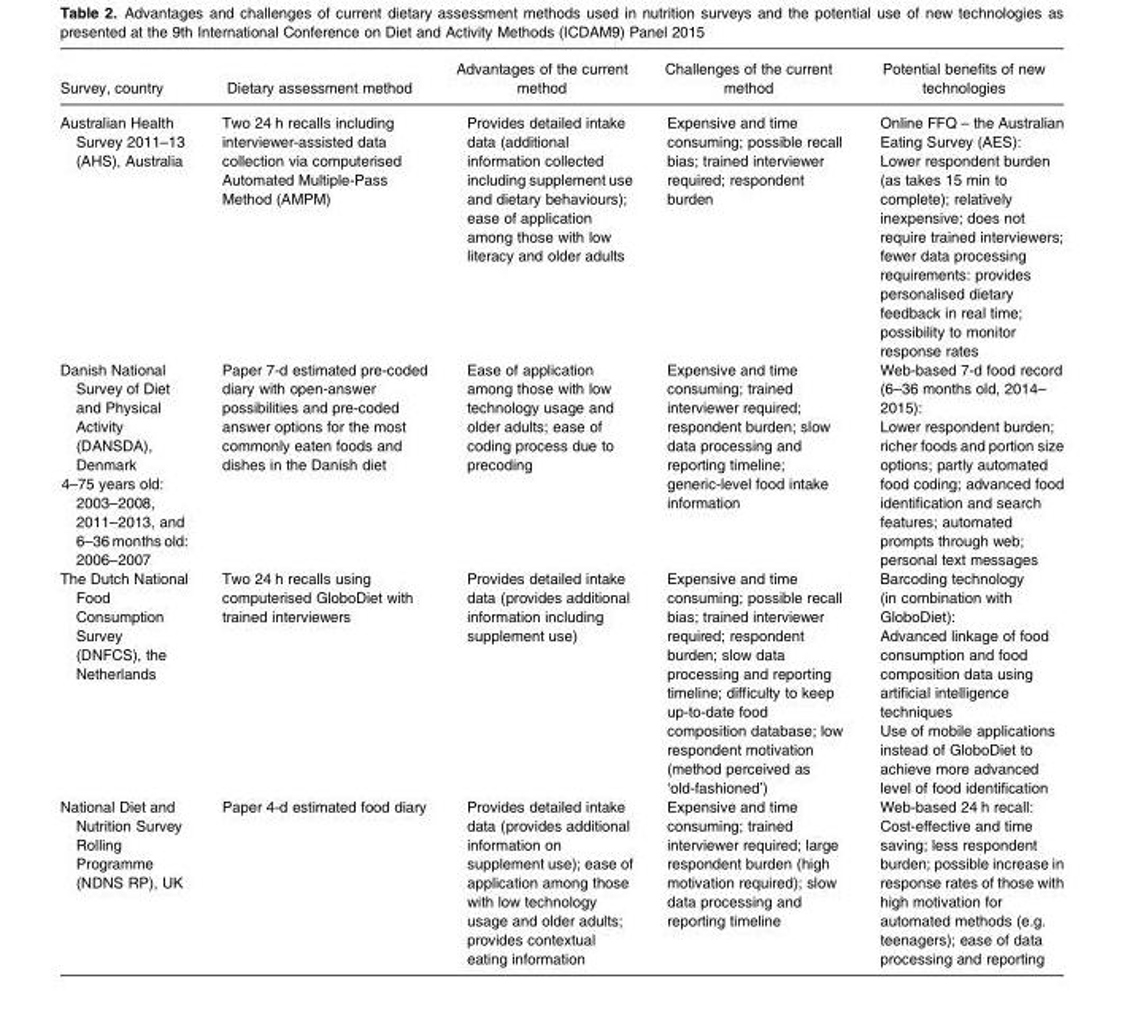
<table><thead><tr><td>Survey, country</td><td>Dietary assessment method</td><td>Advantages of the current method</td><td>Challenges of the current method</td><td>Potential benefits of new technologies</td></tr></thead><tbody><tr><td>Australian Health Survey 2011–13 (AHS), Australia</td><td>Two 24 h recalls including interviewer-assisted data collection via computerised Automated Multiple-Pass Method (AMPM)</td><td>Provides detailed intake data (additional information collected including supplement use and dietary behaviours); ease of application among those with low literacy and older adults</td><td>Expensive and time consuming; possible recall bias; trained interviewer required; respondent burden</td><td>Online FFQ – the Australian Eating Survey (AES): Lower respondent burden (as takes 15 min to complete); relatively inexpensive; does not require trained interviewers; fewer data processing requirements: provides personalised dietary feedback in real time; possibility to monitor response rates</td></tr><tr><td>Danish National Survey of Diet and Physical Activity (DANSDA), Denmark 4–75 years old: 2003–2008, 2011–2013, and 6–36 months old: 2006–2007</td><td>Paper 7-d estimated pre-coded diary with open-answer possibilities and pre-coded answer options for the most commonly eaten foods and dishes in the Danish diet</td><td>Ease of application among those with low technology usage and older adults; ease of coding process due to precoding</td><td>Expensive and time consuming; trained interviewer required; respondent burden; slow data processing and reporting timeline; generic-level food intake information</td><td>Web-based 7-d food record (6–36 months old, 2014– 2015): Lower respondent burden; richer foods and portion size options; partly automated food coding; advanced food identification and search features; automated prompts through web; personal text messages</td></tr><tr><td>The Dutch National Food Consumption Survey (DNFCS), the Netherlands</td><td>Two 24 h recalls using computerised GloboDiet with trained interviewers</td><td>Provides detailed intake data (provides additional information including supplement use)</td><td>Expensive and time consuming; possible recall bias; trained interviewer required; respondent burden; slow data processing and reporting timeline; difficulty to keep up-to-date food composition database; low respondent motivation (method perceived as ‘old-fashioned’)</td><td>Barcoding technology (in combination with GloboDiet): Advanced linkage of food consumption and food composition data using artificial intelligence techniques Use of mobile applications instead of GloboDiet to achieve more advanced level of food identification</td></tr><tr><td>National Diet and Nutrition Survey Rolling Programme (NDNS RP), UK</td><td>Paper 4-d estimated food diary</td><td>Provides detailed intake data (provides additional information on supplement use); ease of application among those with low technology usage and older adults; provides contextual eating information</td><td>Expensive and time consuming; trained interviewer required; large respondent burden (high motivation required); slow data processing and reporting timeline</td><td>Web-based 24 h recall: Cost-effective and time saving; less respondent burden; possible increase in response rates of those with high motivation for automated methods (e.g. teenagers); ease of data processing and reporting</td></tr></tbody></table>